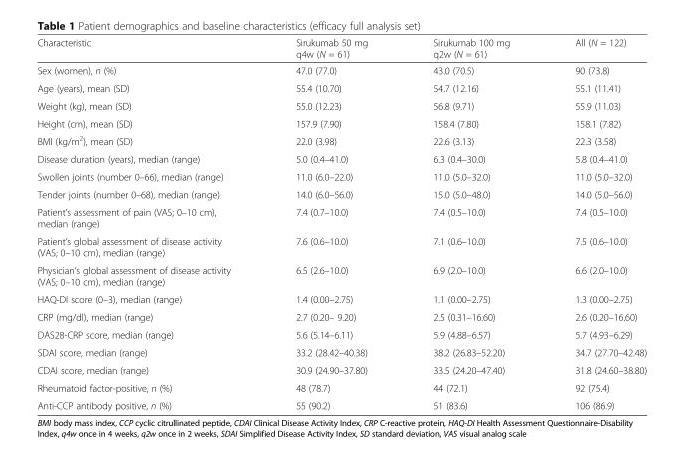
<table><thead><tr><td>Characteristic</td><td>Sirukumab 50 mg q4w (N = 61)</td><td>Sirukumab 100 mg q2w (N = 61)</td><td>All (N = 122)</td></tr></thead><tbody><tr><td>Sex (women), n (%)</td><td>47.0 (77.0)</td><td>43.0 (70.5)</td><td>90 (73.8)</td></tr><tr><td>Age (years), mean (SD)</td><td>55.4 (10.70)</td><td>54.7 (12.16)</td><td>55.1 (11.41)</td></tr><tr><td>Weight (kg), mean (SD)</td><td>55.0 (12.23)</td><td>56.8 (9.71)</td><td>55.9 (11.03)</td></tr><tr><td>Height (cm), mean (SD)</td><td>157.9 (7.90)</td><td>158.4 (7.80)</td><td>158.1 (7.82)</td></tr><tr><td>BMI (kg/m<sup>2</sup>), mean (SD)</td><td>22.0 (3.98)</td><td>22.6 (3.13)</td><td>22.3 (3.58)</td></tr><tr><td>Disease duration (years), median (range)</td><td>5.0 (0.4–41.0)</td><td>6.3 (0.4–30.0)</td><td>5.8 (0.4–41.0)</td></tr><tr><td>Swollen joints (number 0–66), median (range)</td><td>11.0 (6.0–22.0)</td><td>11.0 (5.0–32.0)</td><td>11.0 (5.0–32.0)</td></tr><tr><td>Tender joints (number 0–68), median (range)</td><td>14.0 (6.0–56.0)</td><td>15.0 (5.0–48.0)</td><td>14.0 (5.0–56.0)</td></tr><tr><td>Patient’s assessment of pain (VAS; 0–10 cm), median (range)</td><td>7.4 (0.7–10.0)</td><td>7.4 (0.5–10.0)</td><td>7.4 (0.5–10.0)</td></tr><tr><td>Patient’s global assessment of disease activity (VAS; 0–10 cm), median (range)</td><td>7.6 (0.6–10.0)</td><td>7.1 (0.6–10.0)</td><td>7.5 (0.6–10.0)</td></tr><tr><td>Physician’s global assessment of disease activity (VAS; 0–10 cm), median (range)</td><td>6.5 (2.6–10.0)</td><td>6.9 (2.0–10.0)</td><td>6.6 (2.0–10.0)</td></tr><tr><td>HAQ-DI score (0–3), median (range)</td><td>1.4 (0.00–2.75)</td><td>1.1 (0.00–2.75)</td><td>1.3 (0.00–2.75)</td></tr><tr><td>CRP (mg/dl), median (range)</td><td>2.7 (0.20– 9.20)</td><td>2.5 (0.31–16.60)</td><td>2.6 (0.20–16.60)</td></tr><tr><td>DAS28-CRP score, median (range)</td><td>5.6 (5.14–6.11)</td><td>5.9 (4.88–6.57)</td><td>5.7 (4.93–6.29)</td></tr><tr><td>SDAI score, median (range)</td><td>33.2 (28.42–40.38)</td><td>38.2 (26.83–52.20)</td><td>34.7 (27.70–42.48)</td></tr><tr><td>CDAI score, median (range)</td><td>30.9 (24.90–37.80)</td><td>33.5 (24.20–47.40)</td><td>31.8 (24.60–38.80)</td></tr><tr><td>Rheumatoid factor-positive, n (%)</td><td>48 (78.7)</td><td>44 (72.1)</td><td>92 (75.4)</td></tr><tr><td>Anti-CCP antibody positive, n (%)</td><td>55 (90.2)</td><td>51 (83.6)</td><td>106 (86.9)</td></tr></tbody></table>